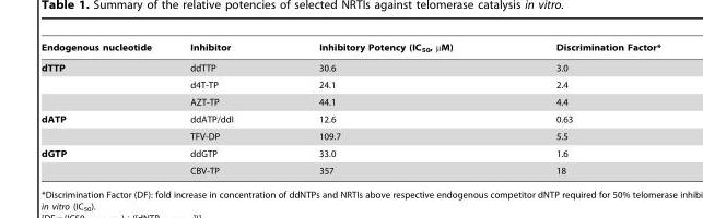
<table><thead><tr><td>Endogenous nucleotide</td><td>Inhibitor</td><td>Inhibitory Potency (IC<sub>50</sub>, µM)</td><td>Discrimination Factor*</td></tr></thead><tbody><tr><td rowspan="3">dTTP</td><td>ddTTP</td><td>30.6</td><td>3.0</td></tr><tr><td>d4T-TP</td><td>24.1</td><td>2.4</td></tr><tr><td>AZT-TP</td><td>44.1</td><td>4.4</td></tr><tr><td rowspan="2">dATP</td><td>ddATP/ddI</td><td>12.6</td><td>0.63</td></tr><tr><td>TFV-DP</td><td>109.7</td><td>5.5</td></tr><tr><td rowspan="2">dGTP</td><td>ddGTP</td><td>33.0</td><td>1.6</td></tr><tr><td>CBV-TP</td><td>357</td><td>18</td></tr></tbody></table>